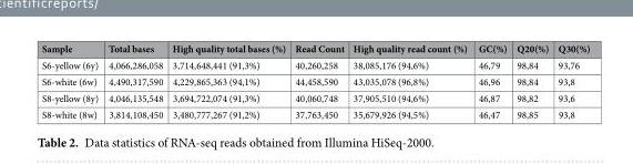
<table><thead><tr><td>Sample</td><td>Total bases</td><td>High quality total bases (%)</td><td>Read Count</td><td>High quality read count (%)</td><td>GC(%)</td><td>Q20(%)</td><td>Q30(%)</td></tr></thead><tbody><tr><td>S6-yellow (6y)</td><td>4,066,286,058</td><td>3,714,648,441 (91,3%)</td><td>40,260,258</td><td>38,085,176 (94,6%)</td><td>46,79</td><td>98,84</td><td>93,76</td></tr><tr><td>S6-white (6w)</td><td>4,490,317,590</td><td>4,229,865,363 (94,1%)</td><td>44,458,590</td><td>43,035,078 (96,8%)</td><td>46,96</td><td>98,84</td><td>93,8</td></tr><tr><td>S8-yellow (8y)</td><td>4,046,135,548</td><td>3,694,722,074 (91,3%)</td><td>40,060,748</td><td>37,905,510 (94,6%)</td><td>46,87</td><td>98,82</td><td>93,6</td></tr><tr><td>S8-white (8w)</td><td>3,814,108,450</td><td>3,480,777,267 (91,2%)</td><td>37,763,450</td><td>35,679,926 (94,5%)</td><td>46,47</td><td>98,85</td><td>93,8</td></tr></tbody></table>